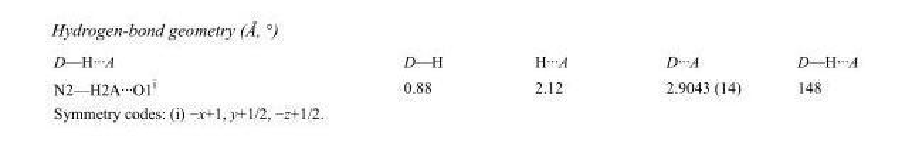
<table><tbody><tr><td>D—H···A</td><td>D—H</td><td>H···A</td><td>D···A</td><td>D—H···A</td></tr><tr><td>N2—H2A···O1<sup>i</sup></td><td>0.88</td><td>2.12</td><td>2.9043 (14)</td><td>148</td></tr></tbody></table>